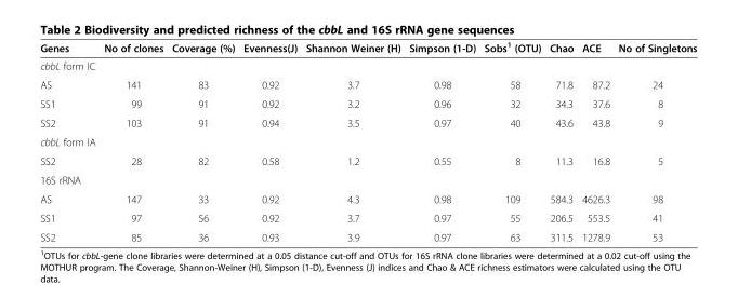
<table><thead><tr><td>Genes</td><td>No of clones</td><td>Coverage (%)</td><td>Evenness(J)</td><td>Shannon Weiner (H)</td><td>Simpson (1-D)</td><td>Sobs<sup>1</sup> (OTU)</td><td>Chao</td><td>ACE</td><td>No of Singletons</td></tr></thead><tbody><tr><td colspan="10">cbbL form IC</td></tr><tr><td>AS</td><td>141</td><td>83</td><td>0.92</td><td>3.7</td><td>0.98</td><td>58</td><td>71.8</td><td>87.2</td><td>24</td></tr><tr><td>SS1</td><td>99</td><td>91</td><td>0.92</td><td>3.2</td><td>0.96</td><td>32</td><td>34.3</td><td>37.6</td><td>8</td></tr><tr><td>SS2</td><td>103</td><td>91</td><td>0.94</td><td>3.5</td><td>0.97</td><td>40</td><td>43.6</td><td>43.8</td><td>9</td></tr><tr><td colspan="10">cbbL form IA</td></tr><tr><td>SS2</td><td>28</td><td>82</td><td>0.58</td><td>1.2</td><td>0.55</td><td>8</td><td>11.3</td><td>16.8</td><td>5</td></tr><tr><td colspan="10">16S rRNA</td></tr><tr><td>AS</td><td>147</td><td>33</td><td>0.92</td><td>4.3</td><td>0.98</td><td>109</td><td>584.3</td><td>4626.3</td><td>98</td></tr><tr><td>SS1</td><td>97</td><td>56</td><td>0.92</td><td>3.7</td><td>0.97</td><td>55</td><td>206.5</td><td>553.5</td><td>41</td></tr><tr><td>SS2</td><td>85</td><td>36</td><td>0.93</td><td>3.9</td><td>0.97</td><td>63</td><td>311.5</td><td>1278.9</td><td>53</td></tr></tbody></table>